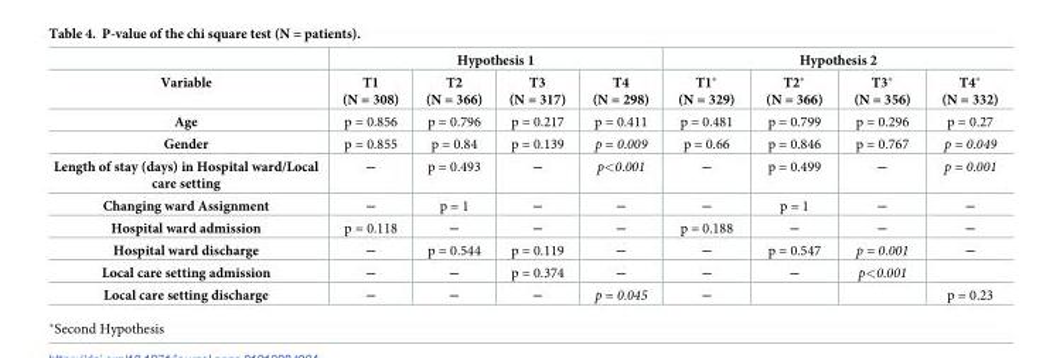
<table><thead><tr><td rowspan="2">Variable</td><td colspan="4">Hypothesis 1</td><td colspan="4">Hypothesis 2</td></tr><tr><td>T1 (N = 308)</td><td>T2 (N = 366)</td><td>T3 (N = 317)</td><td>T4 (N = 298)</td><td>T1* (N = 329)</td><td>T2* (N = 366)</td><td>T3* (N = 356)</td><td>T4* (N = 332)</td></tr></thead><tbody><tr><td>Age</td><td>p = 0.856</td><td>p = 0.796</td><td>p = 0.217</td><td>p = 0.411</td><td>p = 0.481</td><td>p = 0.799</td><td>p = 0.296</td><td>p = 0.27</td></tr><tr><td>Gender</td><td>p = 0.855</td><td>p = 0.84</td><td>p = 0.139</td><td>p = 0.009</td><td>p = 0.66</td><td>p = 0.846</td><td>p = 0.767</td><td>p = 0.049</td></tr><tr><td>Length of stay (days) in Hospital ward/Local care setting</td><td>―</td><td>p = 0.493</td><td>―</td><td>p&lt;0.001</td><td>―</td><td>p = 0.499</td><td>―</td><td>p = 0.001</td></tr><tr><td>Changing ward Assignment</td><td>―</td><td>p = 1</td><td>―</td><td>―</td><td>―</td><td>p = 1</td><td>―</td><td>―</td></tr><tr><td>Hospital ward admission</td><td>p = 0.118</td><td>―</td><td>―</td><td>―</td><td>p = 0.188</td><td>―</td><td>―</td><td>―</td></tr><tr><td>Hospital ward discharge</td><td>―</td><td>p = 0.544</td><td>p = 0.119</td><td>―</td><td>―</td><td>p = 0.547</td><td>p = 0.001</td><td>―</td></tr><tr><td>Local care setting admission</td><td>―</td><td>―</td><td>p = 0.374</td><td>―</td><td>―</td><td>―</td><td>p&lt;0.001</td><td></td></tr><tr><td>Local care setting discharge</td><td>―</td><td>―</td><td>―</td><td>p = 0.045</td><td>―</td><td></td><td></td><td>p = 0.23</td></tr></tbody></table>